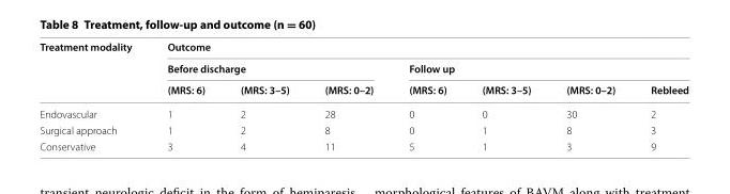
<table><thead><tr><td rowspan="3">Treatment modality</td><td colspan="7">Outcome</td></tr><tr><td colspan="3">Before discharge</td><td colspan="4">Follow up</td></tr><tr><td>(MRS: 6)</td><td>(MRS: 3–5)</td><td>(MRS: 0–2)</td><td>(MRS: 6)</td><td>(MRS: 3–5)</td><td>(MRS: 0–2)</td><td>Rebleed</td></tr></thead><tbody><tr><td>Endovascular</td><td>1</td><td>2</td><td>28</td><td>0</td><td>0</td><td>30</td><td>2</td></tr><tr><td>Surgical approach</td><td>1</td><td>2</td><td>8</td><td>0</td><td>1</td><td>8</td><td>3</td></tr><tr><td>Conservative</td><td>3</td><td>4</td><td>11</td><td>5</td><td>1</td><td>3</td><td>9</td></tr></tbody></table>